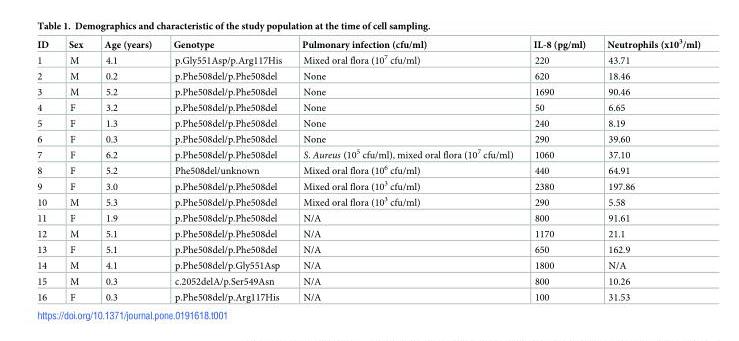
<table><thead><tr><td>ID</td><td>Sex</td><td>Age (years)</td><td>Genotype</td><td>Pulmonary infection (cfu/ml)</td><td>IL-8 (pg/ml)</td><td>Neutrophils (x10<sup>3</sup>/ml)</td></tr></thead><tbody><tr><td>1</td><td>M</td><td>4.1</td><td>p.Gly551Asp/p.Arg117His</td><td>Mixed oral flora (10<sup>7</sup> cfu/ml)</td><td>220</td><td>43.71</td></tr><tr><td>2</td><td>M</td><td>0.2</td><td>p.Phe508del/p.Phe508del</td><td>None</td><td>620</td><td>18.46</td></tr><tr><td>3</td><td>M</td><td>5.2</td><td>p.Phe508del/p.Phe508del</td><td>None</td><td>1690</td><td>90.46</td></tr><tr><td>4</td><td>F</td><td>3.2</td><td>p.Phe508del/p.Phe508del</td><td>None</td><td>50</td><td>6.65</td></tr><tr><td>5</td><td>F</td><td>1.3</td><td>p.Phe508del/p.Phe508del</td><td>None</td><td>240</td><td>8.19</td></tr><tr><td>6</td><td>F</td><td>0.3</td><td>p.Phe508del/p.Phe508del</td><td>None</td><td>290</td><td>39.60</td></tr><tr><td>7</td><td>F</td><td>6.2</td><td>p.Phe508del/p.Phe508del</td><td>S. Aureus (10<sup>5</sup> cfu/ml), mixed oral flora (10<sup>7</sup> cfu/ml)</td><td>1060</td><td>37.10</td></tr><tr><td>8</td><td>F</td><td>5.2</td><td>Phe508del/unknown</td><td>Mixed oral flora (10<sup>6</sup> cfu/ml)</td><td>440</td><td>64.91</td></tr><tr><td>9</td><td>F</td><td>3.0</td><td>p.Phe508del/p.Phe508del</td><td>Mixed oral flora (10<sup>3</sup> cfu/ml)</td><td>2380</td><td>197.86</td></tr><tr><td>10</td><td>M</td><td>5.3</td><td>p.Phe508del/p.Phe508del</td><td>Mixed oral flora (10<sup>3</sup> cfu/ml)</td><td>290</td><td>5.58</td></tr><tr><td>11</td><td>F</td><td>1.9</td><td>p.Phe508del/p.Phe508del</td><td>N/A</td><td>800</td><td>91.61</td></tr><tr><td>12</td><td>M</td><td>5.1</td><td>p.Phe508del/p.Phe508del</td><td>N/A</td><td>1170</td><td>21.1</td></tr><tr><td>13</td><td>F</td><td>5.1</td><td>p.Phe508del/p.Phe508del</td><td>N/A</td><td>650</td><td>162.9</td></tr><tr><td>14</td><td>M</td><td>4.1</td><td>p.Phe508del/p.Gly551Asp</td><td>N/A</td><td>1800</td><td>N/A</td></tr><tr><td>15</td><td>M</td><td>0.3</td><td>c.2052delA/p.Ser549Asn</td><td>N/A</td><td>800</td><td>10.26</td></tr><tr><td>16</td><td>F</td><td>0.3</td><td>p.Phe508del/p.Arg117His</td><td>N/A</td><td>100</td><td>31.53</td></tr></tbody></table>